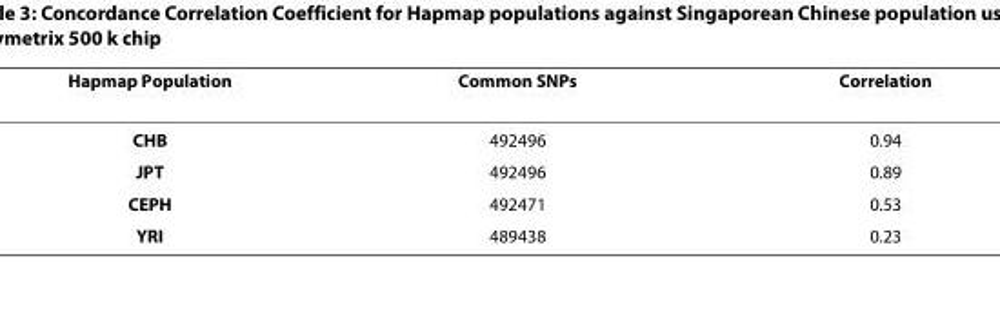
<table><thead><tr><td>Hapmap Population</td><td>Common SNPs</td><td>Correlation</td></tr></thead><tbody><tr><td>CHB</td><td>492496</td><td>0.94</td></tr><tr><td>JPT</td><td>492496</td><td>0.89</td></tr><tr><td>CEPH</td><td>492471</td><td>0.53</td></tr><tr><td>YRI</td><td>489438</td><td>0.23</td></tr></tbody></table>